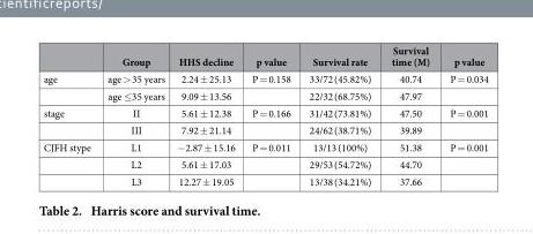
<table><thead><tr><td></td><td>Group</td><td>HHS decline</td><td>p value</td><td>Survival rate</td><td>Survival time (M)</td><td>p value</td></tr></thead><tbody><tr><td rowspan="2">age</td><td>age &gt; 35 years</td><td>2.24 ± 25.13</td><td>P = 0.158</td><td>33/72 (45.82%)</td><td>40.74</td><td>P = 0.034</td></tr><tr><td>age ≤ 35 years</td><td>9.09 ± 13.56</td><td></td><td>22/32 (68.75%)</td><td>47.97</td><td></td></tr><tr><td rowspan="2">stage</td><td>II</td><td>5.61 ± 12.38</td><td>P = 0.166</td><td>31/42 (73.81%)</td><td>47.50</td><td>P = 0.001</td></tr><tr><td>III</td><td>7.92 ± 21.14</td><td></td><td>24/62 (38.71%)</td><td>39.89</td><td></td></tr><tr><td rowspan="3">CJFH stype</td><td>L1</td><td>− 2.87 ± 15.16</td><td>P = 0.011</td><td>13/13 (100%)</td><td>51.38</td><td>P = 0.001</td></tr><tr><td>L2</td><td>5.61 ± 17.03</td><td></td><td>29/53 (54.72%)</td><td>44.70</td><td></td></tr><tr><td>L3</td><td>12.27 ± 19.05</td><td></td><td>13/38 (34.21%)</td><td>37.66</td><td></td></tr></tbody></table>